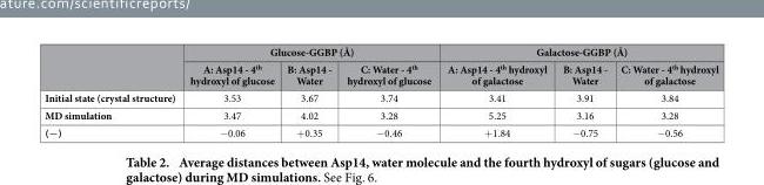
<table><thead><tr><td rowspan="2"></td><td colspan="3">Glucose-GGBP (Å)</td><td colspan="3">Galactose-GGBP (Å)</td></tr><tr><td>A: Asp14 - 4<sup>th</sup> hydroxyl of glucose</td><td>B: Asp14 - Water</td><td>C: Water - 4<sup>th</sup> hydroxyl of glucose</td><td>A: Asp14 - 4<sup>th</sup> hydroxyl of galactose</td><td>B: Asp14 - Water</td><td>C: Water - 4<sup>th</sup> hydroxyl of galactose</td></tr></thead><tbody><tr><td>Initial state (crystal structure)</td><td>3.53</td><td>3.67</td><td>3.74</td><td>3.41</td><td>3.91</td><td>3.84</td></tr><tr><td>MD simulation</td><td>3.47</td><td>4.02</td><td>3.28</td><td>5.25</td><td>3.16</td><td>3.28</td></tr><tr><td>(− )</td><td>− 0.06</td><td>+ 0.35</td><td>− 0.46</td><td>+ 1.84</td><td>− 0.75</td><td>− 0.56</td></tr></tbody></table>